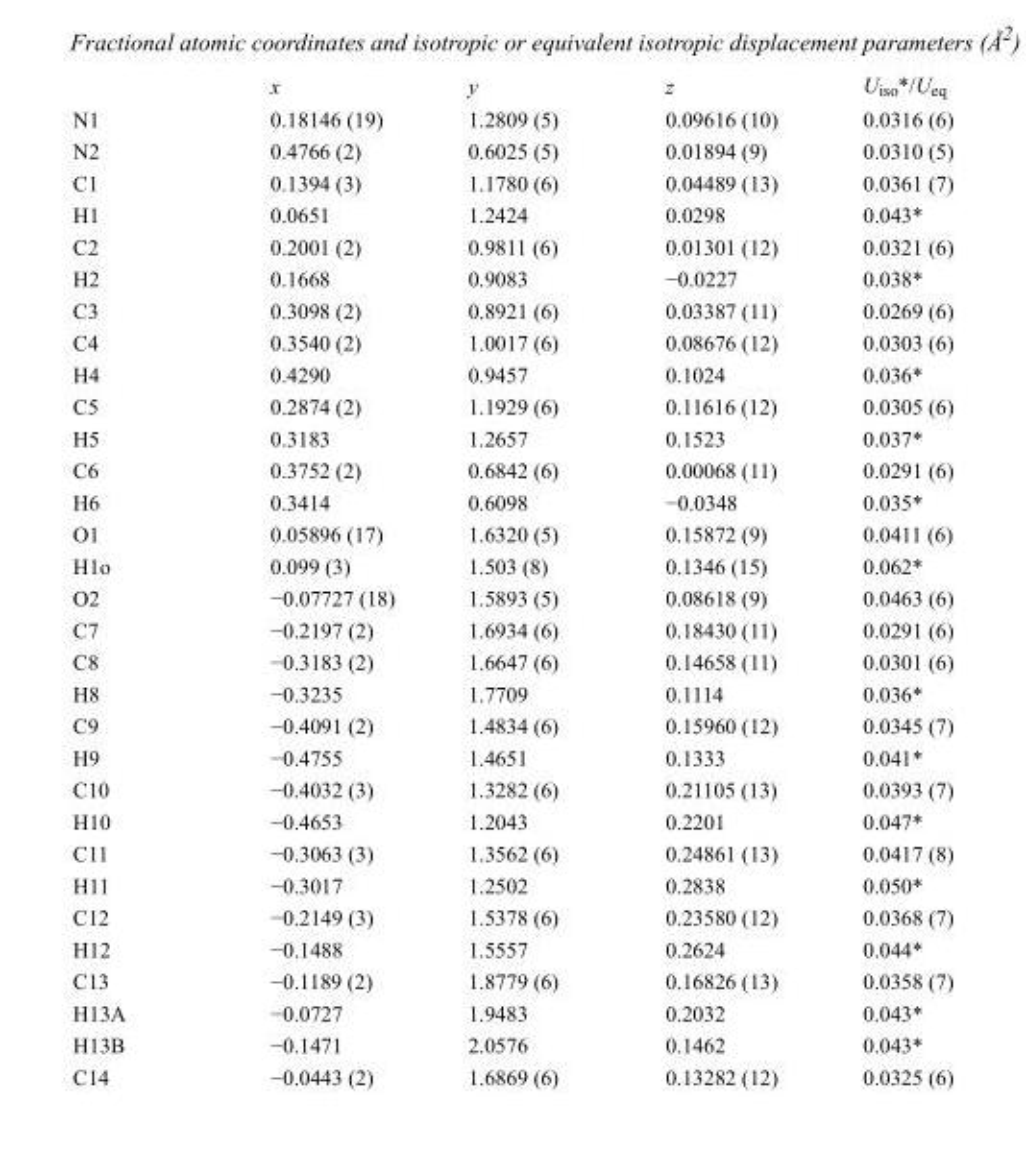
<table><thead><tr><td></td><td>x</td><td>y</td><td>z</td><td>U<sub>iso</sub>*/U<sub>eq</sub></td></tr></thead><tbody><tr><td>N1</td><td>0.18146 (19)</td><td>1.2809 (5)</td><td>0.09616 (10)</td><td>0.0316 (6)</td></tr><tr><td>N2</td><td>0.4766 (2)</td><td>0.6025 (5)</td><td>0.01894 (9)</td><td>0.0310 (5)</td></tr><tr><td>C1</td><td>0.1394 (3)</td><td>1.1780 (6)</td><td>0.04489 (13)</td><td>0.0361 (7)</td></tr><tr><td>H1</td><td>0.0651</td><td>1.2424</td><td>0.0298</td><td>0.043*</td></tr><tr><td>C2</td><td>0.2001 (2)</td><td>0.9811 (6)</td><td>0.01301 (12)</td><td>0.0321 (6)</td></tr><tr><td>H2</td><td>0.1668</td><td>0.9083</td><td>−0.0227</td><td>0.038*</td></tr><tr><td>C3</td><td>0.3098 (2)</td><td>0.8921 (6)</td><td>0.03387 (11)</td><td>0.0269 (6)</td></tr><tr><td>C4</td><td>0.3540 (2)</td><td>1.0017 (6)</td><td>0.08676 (12)</td><td>0.0303 (6)</td></tr><tr><td>H4</td><td>0.4290</td><td>0.9457</td><td>0.1024</td><td>0.036*</td></tr><tr><td>C5</td><td>0.2874 (2)</td><td>1.1929 (6)</td><td>0.11616 (12)</td><td>0.0305 (6)</td></tr><tr><td>H5</td><td>0.3183</td><td>1.2657</td><td>0.1523</td><td>0.037*</td></tr><tr><td>C6</td><td>0.3752 (2)</td><td>0.6842 (6)</td><td>0.00068 (11)</td><td>0.0291 (6)</td></tr><tr><td>H6</td><td>0.3414</td><td>0.6098</td><td>−0.0348</td><td>0.035*</td></tr><tr><td>O1</td><td>0.05896 (17)</td><td>1.6320 (5)</td><td>0.15872 (9)</td><td>0.0411 (6)</td></tr><tr><td>H1o</td><td>0.099 (3)</td><td>1.503 (8)</td><td>0.1346 (15)</td><td>0.062*</td></tr><tr><td>O2</td><td>−0.07727 (18)</td><td>1.5893 (5)</td><td>0.08618 (9)</td><td>0.0463 (6)</td></tr><tr><td>C7</td><td>−0.2197 (2)</td><td>1.6934 (6)</td><td>0.18430 (11)</td><td>0.0291 (6)</td></tr><tr><td>C8</td><td>−0.3183 (2)</td><td>1.6647 (6)</td><td>0.14658 (11)</td><td>0.0301 (6)</td></tr><tr><td>H8</td><td>−0.3235</td><td>1.7709</td><td>0.1114</td><td>0.036*</td></tr><tr><td>C9</td><td>−0.4091 (2)</td><td>1.4834 (6)</td><td>0.15960 (12)</td><td>0.0345 (7)</td></tr><tr><td>H9</td><td>−0.4755</td><td>1.4651</td><td>0.1333</td><td>0.041*</td></tr><tr><td>C10</td><td>−0.4032 (3)</td><td>1.3282 (6)</td><td>0.21105 (13)</td><td>0.0393 (7)</td></tr><tr><td>H10</td><td>−0.4653</td><td>1.2043</td><td>0.2201</td><td>0.047*</td></tr><tr><td>C11</td><td>−0.3063 (3)</td><td>1.3562 (6)</td><td>0.24861 (13)</td><td>0.0417 (8)</td></tr><tr><td>H11</td><td>−0.3017</td><td>1.2502</td><td>0.2838</td><td>0.050*</td></tr><tr><td>C12</td><td>−0.2149 (3)</td><td>1.5378 (6)</td><td>0.23580 (12)</td><td>0.0368 (7)</td></tr><tr><td>H12</td><td>−0.1488</td><td>1.5557</td><td>0.2624</td><td>0.044*</td></tr><tr><td>C13</td><td>−0.1189 (2)</td><td>1.8779 (6)</td><td>0.16826 (13)</td><td>0.0358 (7)</td></tr><tr><td>H13A</td><td>−0.0727</td><td>1.9483</td><td>0.2032</td><td>0.043*</td></tr><tr><td>H13B</td><td>−0.1471</td><td>2.0576</td><td>0.1462</td><td>0.043*</td></tr><tr><td>C14</td><td>−0.0443 (2)</td><td>1.6869 (6)</td><td>0.13282 (12)</td><td>0.0325 (6)</td></tr></tbody></table>